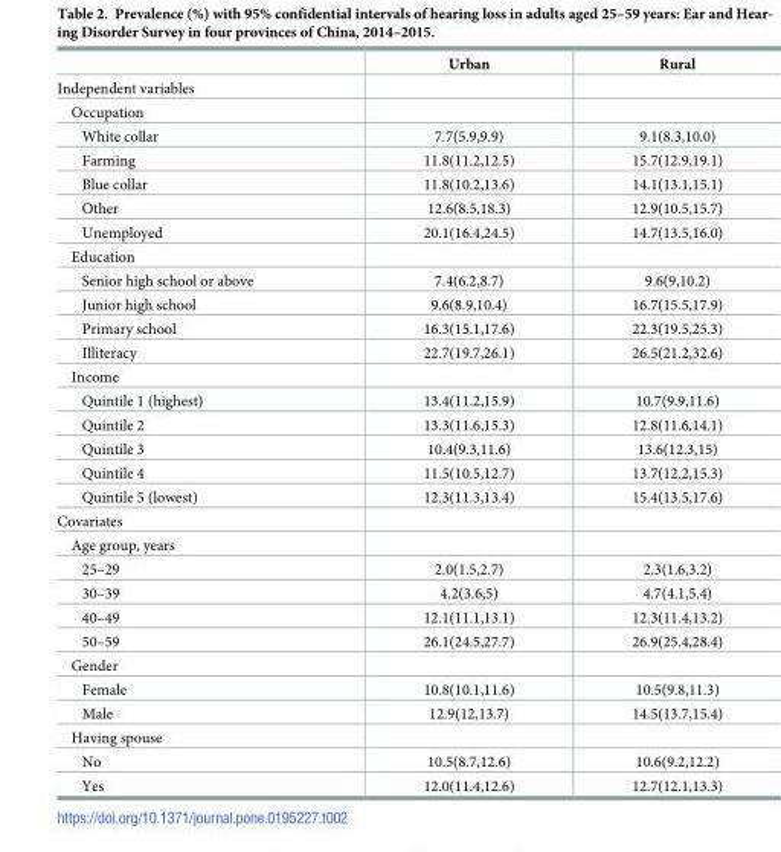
<table><thead><tr><td></td><td>Urban</td><td>Rural</td></tr></thead><tbody><tr><td colspan="3">Independent variables</td></tr><tr><td colspan="3">Occupation</td></tr><tr><td>White collar</td><td>7.7(5.9,9.9)</td><td>9.1(8.3,10.0)</td></tr><tr><td>Farming</td><td>11.8(11.2,12.5)</td><td>15.7(12.9,19.1)</td></tr><tr><td>Blue collar</td><td>11.8(10.2,13.6)</td><td>14.1(13.1,15.1)</td></tr><tr><td>Other</td><td>12.6(8.5,18.3)</td><td>12.9(10.5,15.7)</td></tr><tr><td>Unemployed</td><td>20.1(16.4,24.5)</td><td>14.7(13.5,16.0)</td></tr><tr><td colspan="3">Education</td></tr><tr><td>Senior high school or above</td><td>7.4(6.2,8.7)</td><td>9.6(9,10.2)</td></tr><tr><td>Junior high school</td><td>9.6(8.9,10.4)</td><td>16.7(15.5,17.9)</td></tr><tr><td>Primary school</td><td>16.3(15.1,17.6)</td><td>22.3(19.5,25.3)</td></tr><tr><td>Illiteracy</td><td>22.7(19.7,26.1)</td><td>26.5(21.2,32.6)</td></tr><tr><td colspan="3">Income</td></tr><tr><td>Quintile 1 (highest)</td><td>13.4(11.2,15.9)</td><td>10.7(9.9,11.6)</td></tr><tr><td>Quintile 2</td><td>13.3(11.6,15.3)</td><td>12.8(11.6,14.1)</td></tr><tr><td>Quintile 3</td><td>10.4(9.3,11.6)</td><td>13.6(12.3,15)</td></tr><tr><td>Quintile 4</td><td>11.5(10.5,12.7)</td><td>13.7(12.2,15.3)</td></tr><tr><td>Quintile 5 (lowest)</td><td>12.3(11.3,13.4)</td><td>15.4(13.5,17.6)</td></tr><tr><td colspan="3">Covariates</td></tr><tr><td colspan="3">Age group, years</td></tr><tr><td>25–29</td><td>2.0(1.5,2.7)</td><td>2.3(1.6,3.2)</td></tr><tr><td>30–39</td><td>4.2(3.6,5)</td><td>4.7(4.1,5.4)</td></tr><tr><td>40–49</td><td>12.1(11.1,13.1)</td><td>12.3(11.4,13.2)</td></tr><tr><td>50–59</td><td>26.1(24.5,27.7)</td><td>26.9(25.4,28.4)</td></tr><tr><td colspan="3">Gender</td></tr><tr><td>Female</td><td>10.8(10.1,11.6)</td><td>10.5(9.8,11.3)</td></tr><tr><td>Male</td><td>12.9(12,13.7)</td><td>14.5(13.7,15.4)</td></tr><tr><td colspan="3">Having spouse</td></tr><tr><td>No</td><td>10.5(8.7,12.6)</td><td>10.6(9.2,12.2)</td></tr><tr><td>Yes</td><td>12.0(11.4,12.6)</td><td>12.7(12.1,13.3)</td></tr></tbody></table>